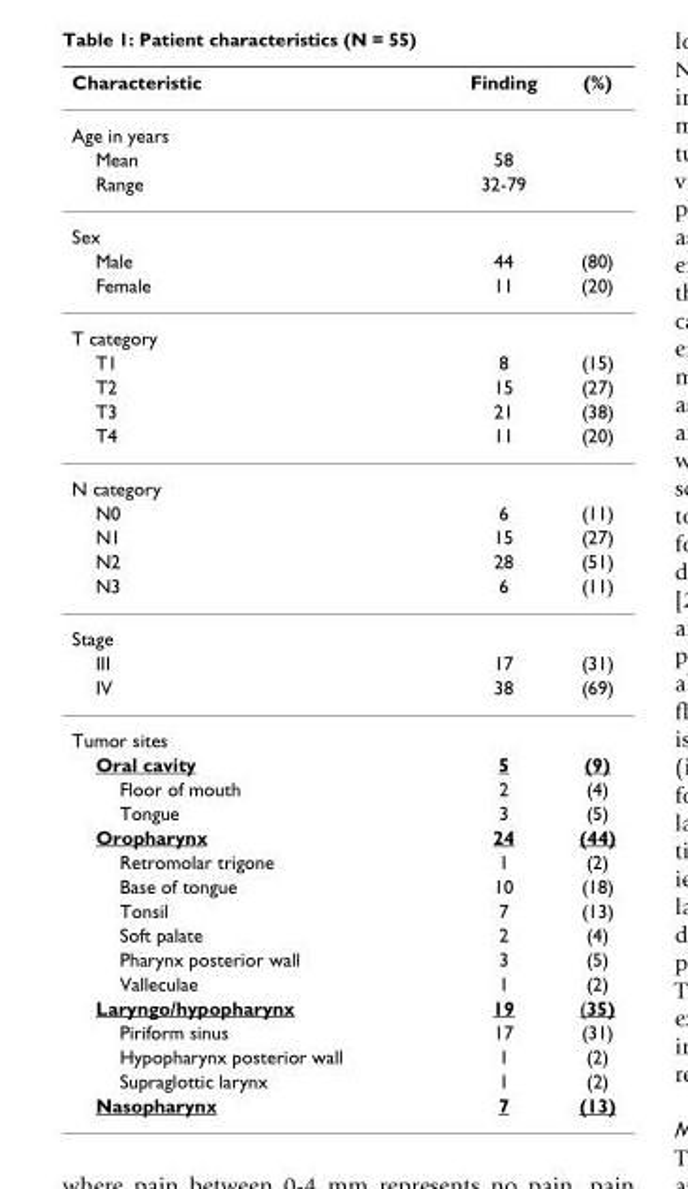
<table><thead><tr><td>Characteristic</td><td>Finding</td><td>(%)</td></tr></thead><tbody><tr><td colspan="3">Age in years</td></tr><tr><td>Mean</td><td>58</td><td></td></tr><tr><td>Range</td><td>32-79</td><td></td></tr><tr><td colspan="3">Sex</td></tr><tr><td>Male</td><td>44</td><td>(80)</td></tr><tr><td>Female</td><td>11</td><td>(20)</td></tr><tr><td colspan="3">T category</td></tr><tr><td>T1</td><td>8</td><td>(15)</td></tr><tr><td>T2</td><td>15</td><td>(27)</td></tr><tr><td>T3</td><td>21</td><td>(38)</td></tr><tr><td>T4</td><td>11</td><td>(20)</td></tr><tr><td colspan="3">N category</td></tr><tr><td>N0</td><td>6</td><td>(11)</td></tr><tr><td>N1</td><td>15</td><td>(27)</td></tr><tr><td>N2</td><td>28</td><td>(51)</td></tr><tr><td>N3</td><td>6</td><td>(11)</td></tr><tr><td colspan="3">Stage</td></tr><tr><td>III</td><td>17</td><td>(31)</td></tr><tr><td>IV</td><td>38</td><td>(69)</td></tr><tr><td colspan="3">Tumor sites</td></tr><tr><td>Oral cavity</td><td>5</td><td>(9)</td></tr><tr><td>Floor of mouth</td><td>2</td><td>(4)</td></tr><tr><td>Tongue</td><td>3</td><td>(5)</td></tr><tr><td>Oropharynx</td><td>24</td><td>(44)</td></tr><tr><td>Retromolar trigone</td><td>1</td><td>(2)</td></tr><tr><td>Base of tongue</td><td>10</td><td>(18)</td></tr><tr><td>Tonsil</td><td>7</td><td>(13)</td></tr><tr><td>Soft palate</td><td>2</td><td>(4)</td></tr><tr><td>Pharynx posterior wall</td><td>3</td><td>(5)</td></tr><tr><td>Valleculae</td><td>1</td><td>(2)</td></tr><tr><td>Laryngo/hypopharynx</td><td>19</td><td>(35)</td></tr><tr><td>Piriform sinus</td><td>17</td><td>(31)</td></tr><tr><td>Hypopharynx posterior wall</td><td>1</td><td>(2)</td></tr><tr><td>Supraglottic larynx</td><td>1</td><td>(2)</td></tr><tr><td>Nasopharynx</td><td>7</td><td>(13)</td></tr></tbody></table>